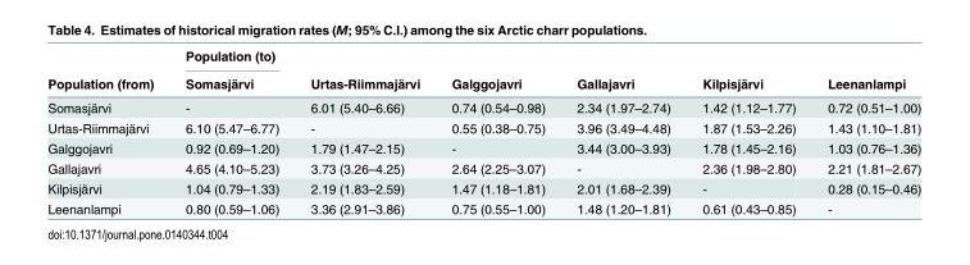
<table><thead><tr><td rowspan="2">Population (from)</td><td rowspan="2">Population (to) Somasjärvi</td><td rowspan="2">Urtas-Riimmajärvi</td><td rowspan="2">Galggojavri</td><td rowspan="2">Gallajavri</td><td rowspan="2">Kilpisjärvi</td><td rowspan="2">Leenanlampi</td></tr><tr></tr></thead><tbody><tr><td>Somasjärvi</td><td>-</td><td>6.01 (5.40–6.66)</td><td>0.74 (0.54–0.98)</td><td>2.34 (1.97–2.74)</td><td>1.42 (1.12–1.77)</td><td>0.72 (0.51–1.00)</td></tr><tr><td>Urtas-Riimmajärvi</td><td>6.10 (5.47–6.77)</td><td>-</td><td>0.55 (0.38–0.75)</td><td>3.96 (3.49–4.48)</td><td>1.87 (1.53–2.26)</td><td>1.43 (1.10–1.81)</td></tr><tr><td>Galggojavri</td><td>0.92 (0.69–1.20)</td><td>1.79 (1.47–2.15)</td><td>-</td><td>3.44 (3.00–3.93)</td><td>1.78 (1.45–2.16)</td><td>1.03 (0.76–1.36)</td></tr><tr><td>Gallajavri</td><td>4.65 (4.10–5.23)</td><td>3.73 (3.26–4.25)</td><td>2.64 (2.25–3.07)</td><td>-</td><td>2.36 (1.98–2.80)</td><td>2.21 (1.81–2.67)</td></tr><tr><td>Kilpisjärvi</td><td>1.04 (0.79–1.33)</td><td>2.19 (1.83–2.59)</td><td>1.47 (1.18–1.81)</td><td>2.01 (1.68–2.39)</td><td>-</td><td>0.28 (0.15–0.46)</td></tr><tr><td>Leenanlampi</td><td>0.80 (0.59–1.06)</td><td>3.36 (2.91–3.86)</td><td>0.75 (0.55–1.00)</td><td>1.48 (1.20–1.81)</td><td>0.61 (0.43–0.85)</td><td>-</td></tr></tbody></table>